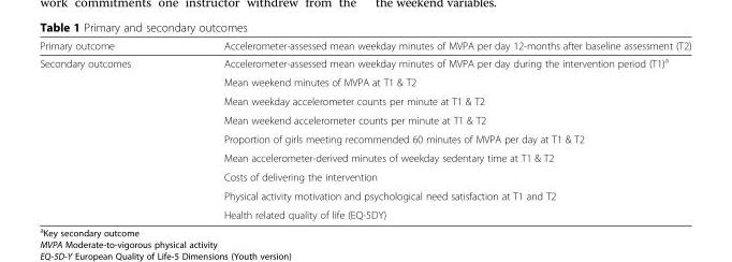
<table><thead><tr><td>Primary outcome</td><td>Accelerometer-assessed mean weekday minutes of MVPA per day 12-months after baseline assessment (T2)</td></tr></thead><tbody><tr><td rowspan="9">Secondary outcomes</td><td>Accelerometer-assessed mean weekday minutes of MVPA per day during the intervention period (T1)<sup>a</sup></td></tr><tr><td>Mean weekend minutes of MVPA at T1 &amp; T2</td></tr><tr><td>Mean weekday accelerometer counts per minute at T1 &amp; T2</td></tr><tr><td>Mean weekend accelerometer counts per minute at T1 &amp; T2</td></tr><tr><td>Proportion of girls meeting recommended 60 minutes of MVPA per day at T1 &amp; T2</td></tr><tr><td>Mean accelerometer-derived minutes of weekday sedentary time at T1 &amp; T2</td></tr><tr><td>Costs of delivering the intervention</td></tr><tr><td>Physical activity motivation and psychological need satisfaction at T1 and T2</td></tr><tr><td>Health related quality of life (EQ-5DY)</td></tr></tbody></table>